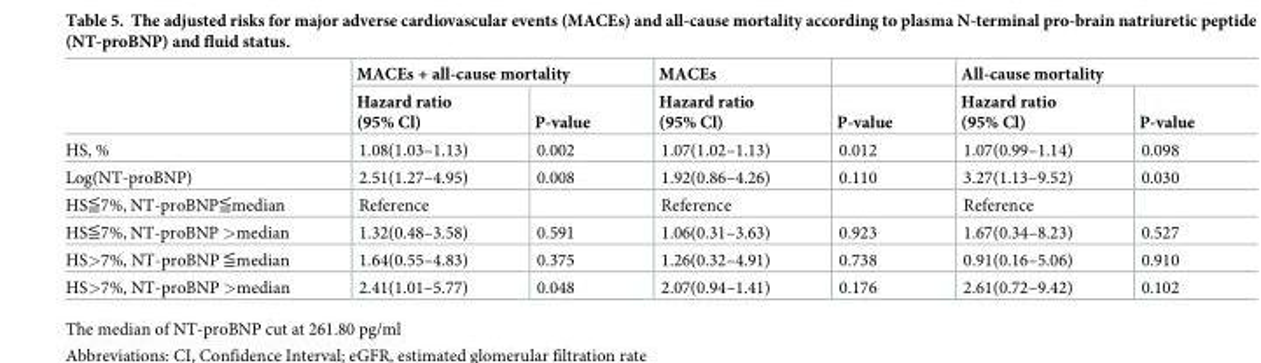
<table><thead><tr><td rowspan="2"></td><td colspan="2">MACEs + all-cause mortality</td><td rowspan="2">MACEs Hazard ratio (95% Cl)</td><td rowspan="2">P-value</td><td colspan="2">All-cause mortality</td></tr><tr><td>Hazard ratio (95% Cl)</td><td>P-value</td><td>Hazard ratio (95% Cl)</td><td>P-value</td></tr></thead><tbody><tr><td>HS, %</td><td>1.08(1.03–1.13)</td><td>0.002</td><td>1.07(1.02–1.13)</td><td>0.012</td><td>1.07(0.99–1.14)</td><td>0.098</td></tr><tr><td>Log(NT-proBNP)</td><td>2.51(1.27–4.95)</td><td>0.008</td><td>1.92(0.86–4.26)</td><td>0.110</td><td>3.27(1.13–9.52)</td><td>0.030</td></tr><tr><td>HS≦7%, NT-proBNP≦median</td><td>Reference</td><td></td><td>Reference</td><td></td><td>Reference</td><td></td></tr><tr><td>HS≦7%, NT-proBNP &gt;median</td><td>1.32(0.48–3.58)</td><td>0.591</td><td>1.06(0.31–3.63)</td><td>0.923</td><td>1.67(0.34–8.23)</td><td>0.527</td></tr><tr><td>HS&gt;7%, NT-proBNP ≦median</td><td>1.64(0.55–4.83)</td><td>0.375</td><td>1.26(0.32–4.91)</td><td>0.738</td><td>0.91(0.16–5.06)</td><td>0.910</td></tr><tr><td>HS&gt;7%, NT-proBNP &gt;median</td><td>2.41(1.01–5.77)</td><td>0.048</td><td>2.07(0.94–1.41)</td><td>0.176</td><td>2.61(0.72–9.42)</td><td>0.102</td></tr></tbody></table>